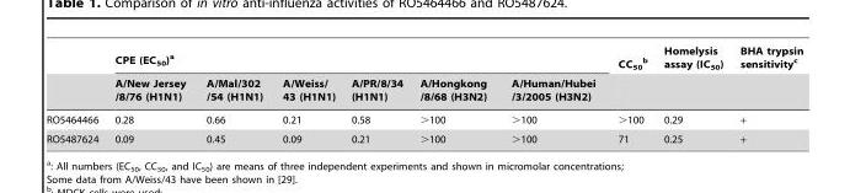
<table><thead><tr><td rowspan="2"></td><td colspan="6">CPE (EC<sub>50</sub>)<sup>a</sup></td><td rowspan="2">CC<sub>50</sub> b</td><td rowspan="2">Homelysis assay (IC<sub>50</sub>)</td><td rowspan="2">BHA trypsin sensitivity<sup>c</sup></td></tr><tr><td>A/New Jersey /8/76 (H1N1)</td><td>A/Mal/302 /54 (H1N1)</td><td>A/Weiss/ 43 (H1N1)</td><td>A/PR/8/34 (H1N1)</td><td>A/Hongkong /8/68 (H3N2)</td><td>A/Human/Hubei /3/2005 (H3N2)</td></tr></thead><tbody><tr><td>RO5464466</td><td>0.28</td><td>0.66</td><td>0.21</td><td>0.58</td><td>&gt;100</td><td>&gt;100</td><td>&gt;100</td><td>0.29</td><td>+</td></tr><tr><td>RO5487624</td><td>0.09</td><td>0.45</td><td>0.09</td><td>0.21</td><td>&gt;100</td><td>&gt;100</td><td>71</td><td>0.25</td><td>+</td></tr></tbody></table>